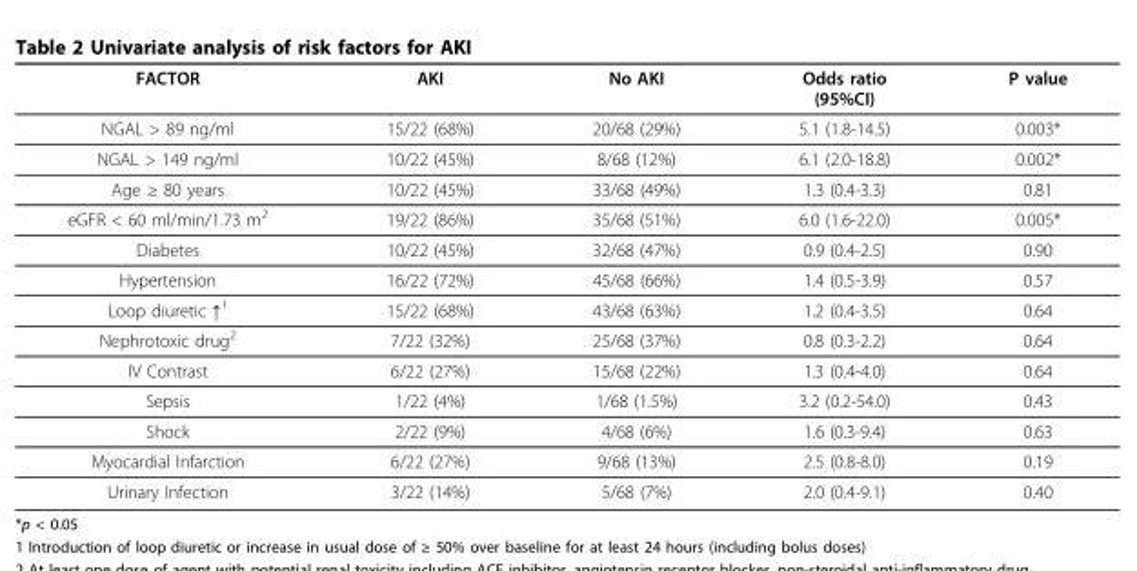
<table><thead><tr><td>FACTOR</td><td>AKI</td><td>No AKI</td><td>Odds ratio (95%CI)</td><td>P value</td></tr></thead><tbody><tr><td>NGAL &gt; 89 ng/ml</td><td>15/22 (68%)</td><td>20/68 (29%)</td><td>5.1 (1.8-14.5)</td><td>0.003*</td></tr><tr><td>NGAL &gt; 149 ng/ml</td><td>10/22 (45%)</td><td>8/68 (12%)</td><td>6.1 (2.0-18.8)</td><td>0.002*</td></tr><tr><td>Age ≥ 80 years</td><td>10/22 (45%)</td><td>33/68 (49%)</td><td>1.3 (0.4-3.3)</td><td>0.81</td></tr><tr><td>eGFR &lt; 60 ml/min/1.73 m<sup>2</sup></td><td>19/22 (86%)</td><td>35/68 (51%)</td><td>6.0 (1.6-22.0)</td><td>0.005*</td></tr><tr><td>Diabetes</td><td>10/22 (45%)</td><td>32/68 (47%)</td><td>0.9 (0.4-2.5)</td><td>0.90</td></tr><tr><td>Hypertension</td><td>16/22 (72%)</td><td>45/68 (66%)</td><td>1.4 (0.5-3.9)</td><td>0.57</td></tr><tr><td>Loop diuretic ↑<sup>1</sup></td><td>15/22 (68%)</td><td>43/68 (63%)</td><td>1.2 (0.4-3.5)</td><td>0.64</td></tr><tr><td>Nephrotoxic drug<sup>2</sup></td><td>7/22 (32%)</td><td>25/68 (37%)</td><td>0.8 (0.3-2.2)</td><td>0.64</td></tr><tr><td>IV Contrast</td><td>6/22 (27%)</td><td>15/68 (22%)</td><td>1.3 (0.4-4.0)</td><td>0.64</td></tr><tr><td>Sepsis</td><td>1/22 (4%)</td><td>1/68 (1.5%)</td><td>3.2 (0.2-54.0)</td><td>0.43</td></tr><tr><td>Shock</td><td>2/22 (9%)</td><td>4/68 (6%)</td><td>1.6 (0.3-9.4)</td><td>0.63</td></tr><tr><td>Myocardial Infarction</td><td>6/22 (27%)</td><td>9/68 (13%)</td><td>2.5 (0.8-8.0)</td><td>0.19</td></tr><tr><td>Urinary Infection</td><td>3/22 (14%)</td><td>5/68 (7%)</td><td>2.0 (0.4-9.1)</td><td>0.40</td></tr></tbody></table>